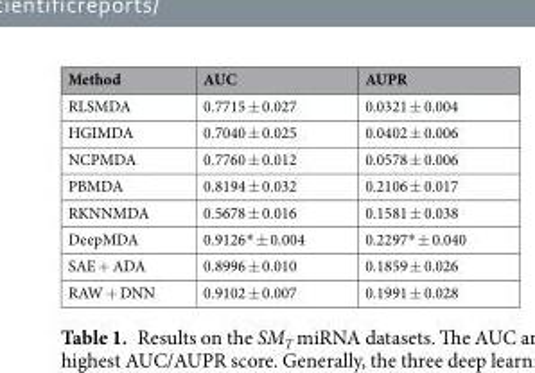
<table><thead><tr><td>Method</td><td>AUC</td><td>AUPR</td></tr></thead><tbody><tr><td>RLSMDA</td><td>0.7715 ± 0.027</td><td>0.0321 ± 0.004</td></tr><tr><td>HGIMDA</td><td>0.7040 ± 0.025</td><td>0.0402 ± 0.006</td></tr><tr><td>NCPMDA</td><td>0.7760 ± 0.012</td><td>0.0578 ± 0.006</td></tr><tr><td>PBMDA</td><td>0.8194 ± 0.032</td><td>0.2106 ± 0.017</td></tr><tr><td>RKNNMDA</td><td>0.5678 ± 0.016</td><td>0.1581 ± 0.038</td></tr><tr><td>DeepMDA</td><td>0.9126* ± 0.004</td><td>0.2297* ± 0.040</td></tr><tr><td>SAE + ADA</td><td>0.8996 ± 0.010</td><td>0.1859 ± 0.026</td></tr><tr><td>RAW + DNN</td><td>0.9102 ± 0.007</td><td>0.1991 ± 0.028</td></tr></tbody></table>